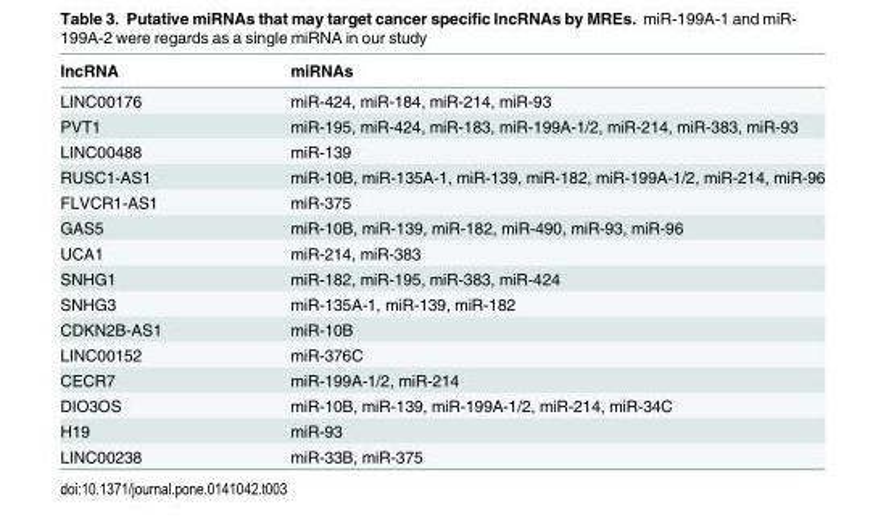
<table><thead><tr><td>lncRNA</td><td>miRNAs</td></tr></thead><tbody><tr><td>LINC00176</td><td>miR-424, miR-184, miR-214, miR-93</td></tr><tr><td>PVT1</td><td>miR-195, miR-424, miR-183, miR-199A-1/2, miR-214, miR-383, miR-93</td></tr><tr><td>LINC00488</td><td>miR-139</td></tr><tr><td>RUSC1-AS1</td><td>miR-10B, miR-135A-1, miR-139, miR-182, miR-199A-1/2, miR-214, miR-96</td></tr><tr><td>FLVCR1-AS1</td><td>miR-375</td></tr><tr><td>GAS5</td><td>miR-10B, miR-139, miR-182, miR-490, miR-93, miR-96</td></tr><tr><td>UCA1</td><td>miR-214, miR-383</td></tr><tr><td>SNHG1</td><td>miR-182, miR-195, miR-383, miR-424</td></tr><tr><td>SNHG3</td><td>miR-135A-1, miR-139, miR-182</td></tr><tr><td>CDKN2B-AS1</td><td>miR-10B</td></tr><tr><td>LINC00152</td><td>miR-376C</td></tr><tr><td>CECR7</td><td>miR-199A-1/2, miR-214</td></tr><tr><td>DIO3OS</td><td>miR-10B, miR-139, miR-199A-1/2, miR-214, miR-34C</td></tr><tr><td>H19</td><td>miR-93</td></tr><tr><td>LINC00238</td><td>miR-33B, miR-375</td></tr></tbody></table>